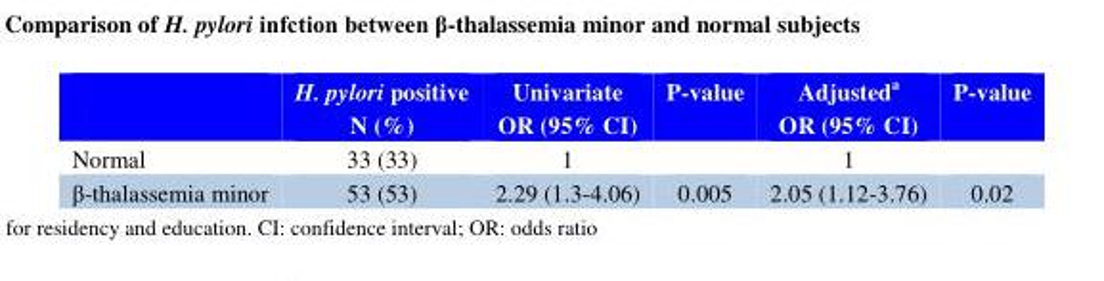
<table><thead><tr><td></td><td>H. pylori positive N (%)</td><td>Univariate OR (95% CI)</td><td>P-value</td><td>Adjusteda OR (95% CI)</td><td>P-value</td></tr></thead><tbody><tr><td>Normal</td><td>33 (33)</td><td>1</td><td></td><td>1</td><td></td></tr><tr><td>β-thalassemia minor</td><td>53 (53)</td><td>2.29 (1.3-4.06)</td><td>0.005</td><td>2.05 (1.12-3.76)</td><td>0.02</td></tr></tbody></table>